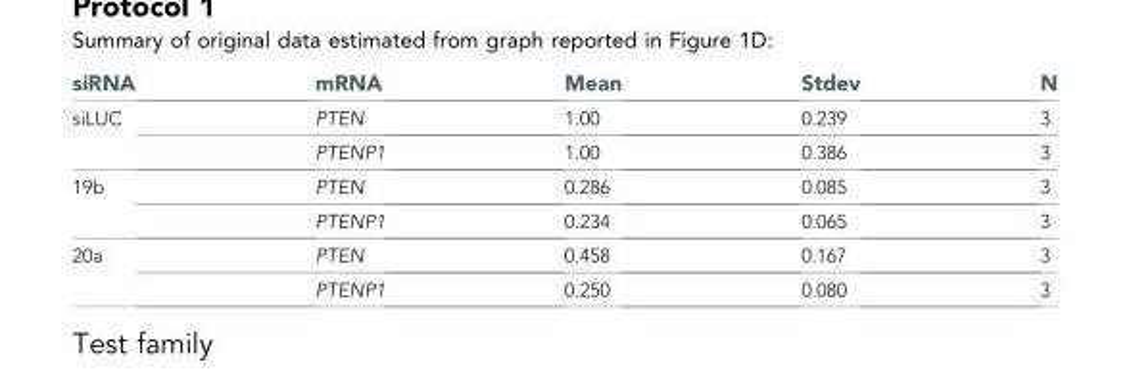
<table><thead><tr><td>siRNA</td><td>mRNA</td><td>Mean</td><td>Stdev</td><td>N</td></tr></thead><tbody><tr><td rowspan="2">siLUC</td><td>PTEN</td><td>1.00</td><td>0.239</td><td>3</td></tr><tr><td>PTENP1</td><td>1.00</td><td>0.386</td><td>3</td></tr><tr><td rowspan="2">19b</td><td>PTEN</td><td>0.286</td><td>0.085</td><td>3</td></tr><tr><td>PTENP1</td><td>0.234</td><td>0.065</td><td>3</td></tr><tr><td rowspan="2">20a</td><td>PTEN</td><td>0.458</td><td>0.167</td><td>3</td></tr><tr><td>PTENP1</td><td>0.250</td><td>0.080</td><td>3</td></tr></tbody></table>